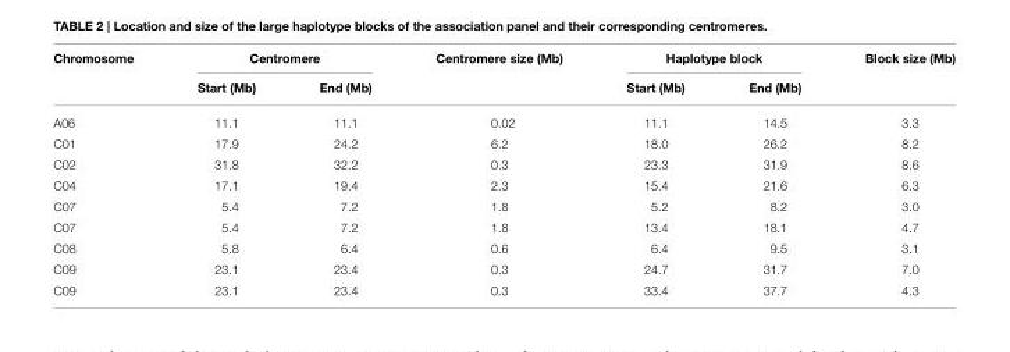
<table><thead><tr><td rowspan="2">Chromosome</td><td colspan="2">Centromere</td><td rowspan="2">Centromere size (Mb)</td><td colspan="2">Haplotype block</td><td rowspan="2">Block size (Mb)</td></tr><tr><td>Start (Mb)</td><td>End (Mb)</td><td>Start (Mb)</td><td>End (Mb)</td></tr></thead><tbody><tr><td>A06</td><td>11.1</td><td>11.1</td><td>0.02</td><td>11.1</td><td>14.5</td><td>3.3</td></tr><tr><td>C01</td><td>17.9</td><td>24.2</td><td>6.2</td><td>18.0</td><td>26.2</td><td>8.2</td></tr><tr><td>C02</td><td>31.8</td><td>32.2</td><td>0.3</td><td>23.3</td><td>31.9</td><td>8.6</td></tr><tr><td>C04</td><td>17.1</td><td>19.4</td><td>2.3</td><td>15.4</td><td>21.6</td><td>6.3</td></tr><tr><td>C07</td><td>5.4</td><td>7.2</td><td>1.8</td><td>5.2</td><td>8.2</td><td>3.0</td></tr><tr><td>C07</td><td>5.4</td><td>7.2</td><td>1.8</td><td>13.4</td><td>18.1</td><td>4.7</td></tr><tr><td>C08</td><td>5.8</td><td>6.4</td><td>0.6</td><td>6.4</td><td>9.5</td><td>3.1</td></tr><tr><td>C09</td><td>23.1</td><td>23.4</td><td>0.3</td><td>24.7</td><td>31.7</td><td>7.0</td></tr><tr><td>C09</td><td>23.1</td><td>23.4</td><td>0.3</td><td>33.4</td><td>37.7</td><td>4.3</td></tr></tbody></table>